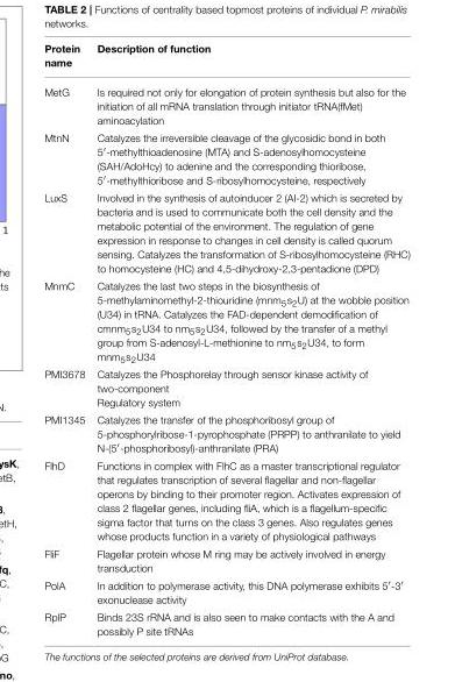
<table><thead><tr><td>Protein name</td><td>Description of function</td></tr></thead><tbody><tr><td>MetG</td><td>Is required not only for elongation of protein synthesis but also for the initiation of all mRNA translation through initiator tRNA(fMet) aminoacylation</td></tr><tr><td>MtnN</td><td>Catalyzes the irreversible cleavage of the glycosidic bond in both 5′-methylthioadenosine (MTA) and S-adenosylhomocysteine (SAH/AdoHcy) to adenine and the corresponding thioribose, 5′-methylthioribose and S-ribosylhomocysteine, respectively</td></tr><tr><td>LuxS</td><td>Involved in the synthesis of autoinducer 2 (AI-2) which is secreted by bacteria and is used to communicate both the cell density and the metabolic potential of the environment. The regulation of gene expression in response to changes in cell density is called quorum sensing. Catalyzes the transformation of S-ribosylhomocysteine (RHC) to homocysteine (HC) and 4,5-dihydroxy-2,3-pentadione (DPD)</td></tr><tr><td>MnmC</td><td>Catalyzes the last two steps in the biosynthesis of 5-methylaminomethyl-2-thiouridine (mnm<sub>5</sub>s<sub>2</sub>U) at the wobble position (U34) in tRNA. Catalyzes the FAD-dependent demodification of cmnm<sub>5</sub>s<sub>2</sub>U34 to nm<sub>5</sub>s<sub>2</sub>U34, followed by the transfer of a methyl group from S-adenosyl-L-methionine to nm<sub>5</sub>s<sub>2</sub>U34, to form mnm<sub>5</sub>s<sub>2</sub>U34</td></tr><tr><td>PMI3678</td><td>Catalyzes the Phosphorelay through sensor kinase activity of two-component Regulatory system</td></tr><tr><td>PMI1345</td><td>Catalyzes the transfer of the phosphoribosyl group of 5-phosphorylribose-1-pyrophosphate (PRPP) to anthranilate to yield N-(5′-phosphoribosyl)-anthranilate (PRA)</td></tr><tr><td>FlhD</td><td>Functions in complex with FlhC as a master transcriptional regulator that regulates transcription of several flagellar and non-flagellar operons by binding to their promoter region. Activates expression of class 2 flagellar genes, including fliA, which is a flagellum-specific sigma factor that turns on the class 3 genes. Also regulates genes whose products function in a variety of physiological pathways</td></tr><tr><td>FliF</td><td>Flagellar protein whose M ring may be actively involved in energy transduction</td></tr><tr><td>PolA</td><td>In addition to polymerase activity, this DNA polymerase exhibits 5′-3′ exonuclease activity</td></tr><tr><td>RplP</td><td>Binds 23S rRNA and is also seen to make contacts with the A and possibly P site tRNAs</td></tr></tbody></table>